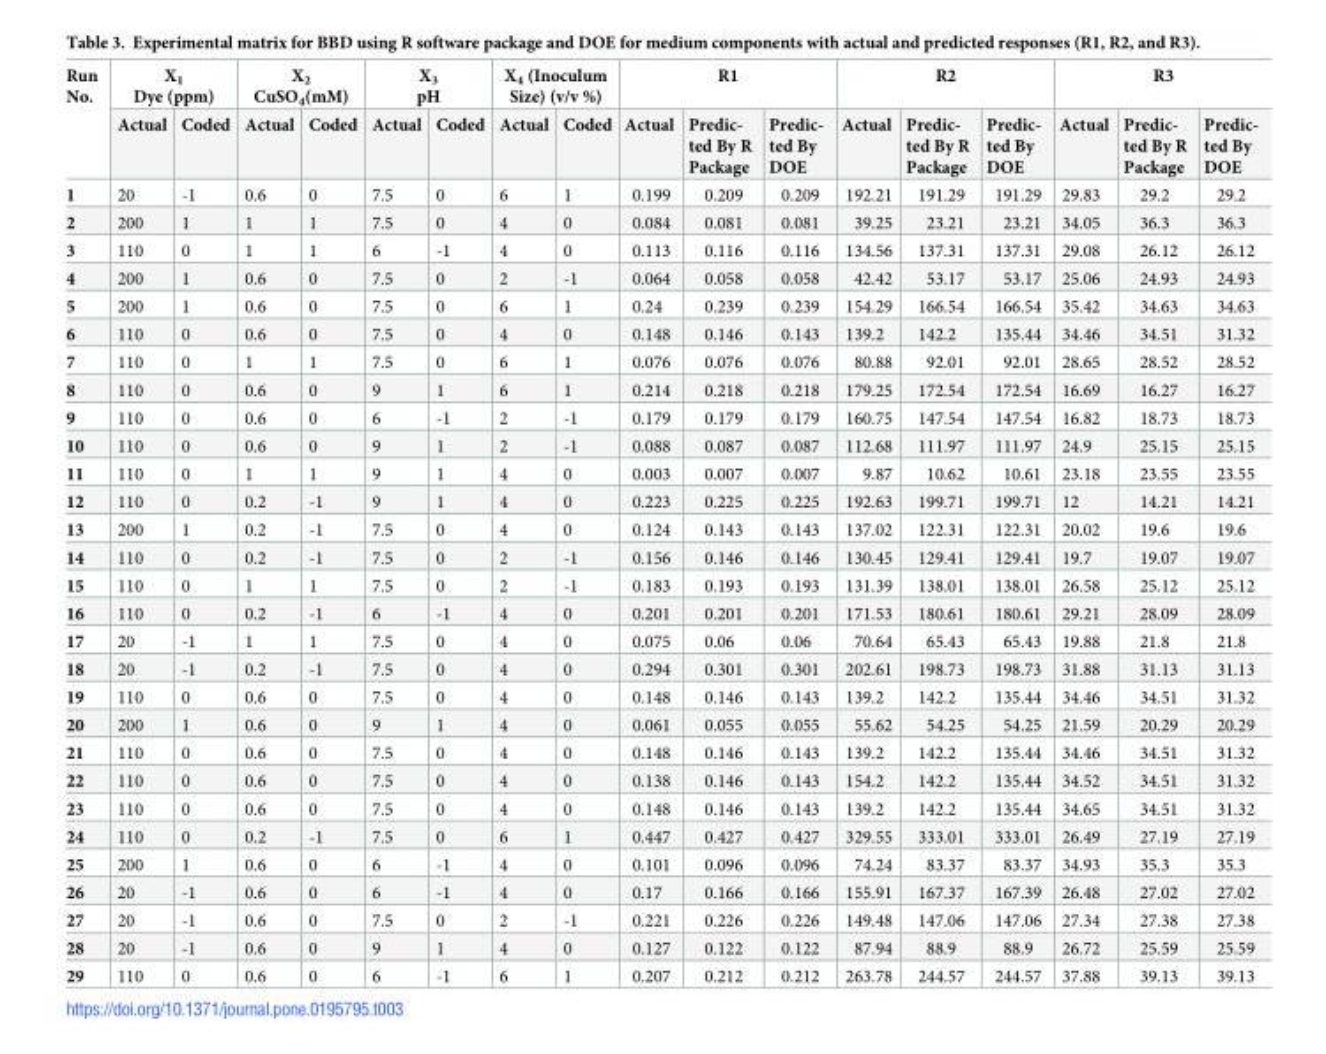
<table><thead><tr><td rowspan="2">Run No.</td><td colspan="2">X<sub>1</sub> Dye (ppm)</td><td colspan="2">X<sub>2</sub> CuSO<sub>4</sub>(mM)</td><td colspan="2">X<sub>3</sub> pH</td><td colspan="2">X<sub>4</sub> (Inoculum Size) (v/v %)</td><td colspan="3">R1</td><td colspan="3">R2</td><td colspan="3">R3</td></tr><tr><td>Actual</td><td>Coded</td><td>Actual</td><td>Coded</td><td>Actual</td><td>Coded</td><td>Actual</td><td>Coded</td><td>Actual</td><td>Predic- ted By R Package</td><td>Predic- ted By DOE</td><td>Actual</td><td>Predic- ted By R Package</td><td>Predic- ted By DOE</td><td>Actual</td><td>Predic- ted By R Package</td><td>Predic- ted By DOE</td></tr></thead><tbody><tr><td>1</td><td>20</td><td>-1</td><td>0.6</td><td>0</td><td>7.5</td><td>0</td><td>6</td><td>1</td><td>0.199</td><td>0.209</td><td>0.209</td><td>192.21</td><td>191.29</td><td>191.29</td><td>29.83</td><td>29.2</td><td>29.2</td></tr><tr><td>2</td><td>200</td><td>1</td><td>1</td><td>1</td><td>7.5</td><td>0</td><td>4</td><td>0</td><td>0.084</td><td>0.081</td><td>0.081</td><td>39.25</td><td>23.21</td><td>23.21</td><td>34.05</td><td>36.3</td><td>36.3</td></tr><tr><td>3</td><td>110</td><td>0</td><td>1</td><td>1</td><td>6</td><td>-1</td><td>4</td><td>0</td><td>0.113</td><td>0.116</td><td>0.116</td><td>134.56</td><td>137.31</td><td>137.31</td><td>29.08</td><td>26.12</td><td>26.12</td></tr><tr><td>4</td><td>200</td><td>1</td><td>0.6</td><td>0</td><td>7.5</td><td>0</td><td>2</td><td>-1</td><td>0.064</td><td>0.058</td><td>0.058</td><td>42.42</td><td>53.17</td><td>53.17</td><td>25.06</td><td>24.93</td><td>24.93</td></tr><tr><td>5</td><td>200</td><td>1</td><td>0.6</td><td>0</td><td>7.5</td><td>0</td><td>6</td><td>1</td><td>0.24</td><td>0.239</td><td>0.239</td><td>154.29</td><td>166.54</td><td>166.54</td><td>35.42</td><td>34.63</td><td>34.63</td></tr><tr><td>6</td><td>110</td><td>0</td><td>0.6</td><td>0</td><td>7.5</td><td>0</td><td>4</td><td>0</td><td>0.148</td><td>0.146</td><td>0.143</td><td>139.2</td><td>142.2</td><td>135.44</td><td>34.46</td><td>34.51</td><td>31.32</td></tr><tr><td>7</td><td>110</td><td>0</td><td>1</td><td>1</td><td>7.5</td><td>0</td><td>6</td><td>1</td><td>0.076</td><td>0.076</td><td>0.076</td><td>80.88</td><td>92.01</td><td>92.01</td><td>28.65</td><td>28.52</td><td>28.52</td></tr><tr><td>8</td><td>110</td><td>0</td><td>0.6</td><td>0</td><td>9</td><td>1</td><td>6</td><td>1</td><td>0.214</td><td>0.218</td><td>0.218</td><td>179.25</td><td>172.54</td><td>172.54</td><td>16.69</td><td>16.27</td><td>16.27</td></tr><tr><td>9</td><td>110</td><td>0</td><td>0.6</td><td>0</td><td>6</td><td>-1</td><td>2</td><td>-1</td><td>0.179</td><td>0.179</td><td>0.179</td><td>160.75</td><td>147.54</td><td>147.54</td><td>16.82</td><td>18.73</td><td>18.73</td></tr><tr><td>10</td><td>110</td><td>0</td><td>0.6</td><td>0</td><td>9</td><td>1</td><td>2</td><td>-1</td><td>0.088</td><td>0.087</td><td>0.087</td><td>112.68</td><td>111.97</td><td>111.97</td><td>24.9</td><td>25.15</td><td>25.15</td></tr><tr><td>11</td><td>110</td><td>0</td><td>1</td><td>1</td><td>9</td><td>1</td><td>4</td><td>0</td><td>0.003</td><td>0.007</td><td>0.007</td><td>9.87</td><td>10.62</td><td>10.61</td><td>23.18</td><td>23.55</td><td>23.55</td></tr><tr><td>12</td><td>110</td><td>0</td><td>0.2</td><td>-1</td><td>9</td><td>1</td><td>4</td><td>0</td><td>0.223</td><td>0.225</td><td>0.225</td><td>192.63</td><td>199.71</td><td>199.71</td><td>12</td><td>14.21</td><td>14.21</td></tr><tr><td>13</td><td>200</td><td>1</td><td>0.2</td><td>-1</td><td>7.5</td><td>0</td><td>4</td><td>0</td><td>0.124</td><td>0.143</td><td>0.143</td><td>137.02</td><td>122.31</td><td>122.31</td><td>20.02</td><td>19.6</td><td>19.6</td></tr><tr><td>14</td><td>110</td><td>0</td><td>0.2</td><td>-1</td><td>7.5</td><td>0</td><td>2</td><td>-1</td><td>0.156</td><td>0.146</td><td>0.146</td><td>130.45</td><td>129.41</td><td>129.41</td><td>19.7</td><td>19.07</td><td>19.07</td></tr><tr><td>15</td><td>110</td><td>0</td><td>1</td><td>1</td><td>7.5</td><td>0</td><td>2</td><td>-1</td><td>0.183</td><td>0.193</td><td>0.193</td><td>131.39</td><td>138.01</td><td>138.01</td><td>26.58</td><td>25.12</td><td>25.12</td></tr><tr><td>16</td><td>110</td><td>0</td><td>0.2</td><td>-1</td><td>6</td><td>-1</td><td>4</td><td>0</td><td>0.201</td><td>0.201</td><td>0.201</td><td>171.53</td><td>180.61</td><td>180.61</td><td>29.21</td><td>28.09</td><td>28.09</td></tr><tr><td>17</td><td>20</td><td>-1</td><td>1</td><td>1</td><td>7.5</td><td>0</td><td>4</td><td>0</td><td>0.075</td><td>0.06</td><td>0.06</td><td>70.64</td><td>65.43</td><td>65.43</td><td>19.88</td><td>21.8</td><td>21.8</td></tr><tr><td>18</td><td>20</td><td>-1</td><td>0.2</td><td>-1</td><td>7.5</td><td>0</td><td>4</td><td>0</td><td>0.294</td><td>0.301</td><td>0.301</td><td>202.61</td><td>198.73</td><td>198.73</td><td>31.88</td><td>31.13</td><td>31.13</td></tr><tr><td>19</td><td>110</td><td>0</td><td>0.6</td><td>0</td><td>7.5</td><td>0</td><td>4</td><td>0</td><td>0.148</td><td>0.146</td><td>0.143</td><td>139.2</td><td>142.2</td><td>135.44</td><td>34.46</td><td>34.51</td><td>31.32</td></tr><tr><td>20</td><td>200</td><td>1</td><td>0.6</td><td>0</td><td>9</td><td>1</td><td>4</td><td>0</td><td>0.061</td><td>0.055</td><td>0.055</td><td>55.62</td><td>54.25</td><td>54.25</td><td>21.59</td><td>20.29</td><td>20.29</td></tr><tr><td>21</td><td>110</td><td>0</td><td>0.6</td><td>0</td><td>7.5</td><td>0</td><td>4</td><td>0</td><td>0.148</td><td>0.146</td><td>0.143</td><td>139.2</td><td>142.2</td><td>135.44</td><td>34.46</td><td>34.51</td><td>31.32</td></tr><tr><td>22</td><td>110</td><td>0</td><td>0.6</td><td>0</td><td>7.5</td><td>0</td><td>4</td><td>0</td><td>0.138</td><td>0.146</td><td>0.143</td><td>154.2</td><td>142.2</td><td>135.44</td><td>34.52</td><td>34.51</td><td>31.32</td></tr><tr><td>23</td><td>110</td><td>0</td><td>0.6</td><td>0</td><td>7.5</td><td>0</td><td>4</td><td>0</td><td>0.148</td><td>0.146</td><td>0.143</td><td>139.2</td><td>142.2</td><td>135.44</td><td>34.65</td><td>34.51</td><td>31.32</td></tr><tr><td>24</td><td>110</td><td>0</td><td>0.2</td><td>-1</td><td>7.5</td><td>0</td><td>6</td><td>1</td><td>0.447</td><td>0.427</td><td>0.427</td><td>329.55</td><td>333.01</td><td>333.01</td><td>26.49</td><td>27.19</td><td>27.19</td></tr><tr><td>25</td><td>200</td><td>1</td><td>0.6</td><td>0</td><td>6</td><td>-1</td><td>4</td><td>0</td><td>0.101</td><td>0.096</td><td>0.096</td><td>74.24</td><td>83.37</td><td>83.37</td><td>34.93</td><td>35.3</td><td>35.3</td></tr><tr><td>26</td><td>20</td><td>-1</td><td>0.6</td><td>0</td><td>6</td><td>-1</td><td>4</td><td>0</td><td>0.17</td><td>0.166</td><td>0.166</td><td>155.91</td><td>167.37</td><td>167.39</td><td>26.48</td><td>27.02</td><td>27.02</td></tr><tr><td>27</td><td>20</td><td>-1</td><td>0.6</td><td>0</td><td>7.5</td><td>0</td><td>2</td><td>-1</td><td>0.221</td><td>0.226</td><td>0.226</td><td>149.48</td><td>147.06</td><td>147.06</td><td>27.34</td><td>27.38</td><td>27.38</td></tr><tr><td>28</td><td>20</td><td>-1</td><td>0.6</td><td>0</td><td>9</td><td>1</td><td>4</td><td>0</td><td>0.127</td><td>0.122</td><td>0.122</td><td>87.94</td><td>88.9</td><td>88.9</td><td>26.72</td><td>25.59</td><td>25.59</td></tr><tr><td>29</td><td>110</td><td>0</td><td>0.6</td><td>0</td><td>6</td><td>-1</td><td>6</td><td>1</td><td>0.207</td><td>0.212</td><td>0.212</td><td>263.78</td><td>244.57</td><td>244.57</td><td>37.88</td><td>39.13</td><td>39.13</td></tr></tbody></table>